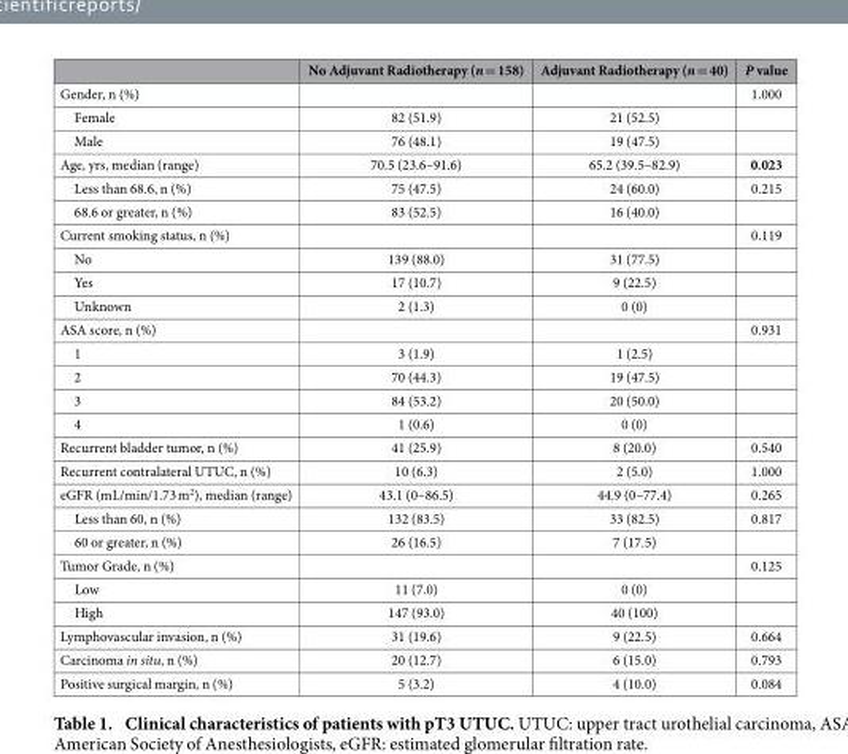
<table><thead><tr><td></td><td>No Adjuvant Radiotherapy (n = 158)</td><td>Adjuvant Radiotherapy (n = 40)</td><td>P value</td></tr></thead><tbody><tr><td>Gender, n (%)</td><td></td><td></td><td>1.000</td></tr><tr><td>Female</td><td>82 (51.9)</td><td>21 (52.5)</td><td></td></tr><tr><td>Male</td><td>76 (48.1)</td><td>19 (47.5)</td><td></td></tr><tr><td>Age, yrs, median (range)</td><td>70.5 (23.6–91.6)</td><td>65.2 (39.5–82.9)</td><td>0.023</td></tr><tr><td>Less than 68.6, n (%)</td><td>75 (47.5)</td><td>24 (60.0)</td><td>0.215</td></tr><tr><td>68.6 or greater, n (%)</td><td>83 (52.5)</td><td>16 (40.0)</td><td></td></tr><tr><td>Current smoking status, n (%)</td><td></td><td></td><td>0.119</td></tr><tr><td>No</td><td>139 (88.0)</td><td>31 (77.5)</td><td></td></tr><tr><td>Yes</td><td>17 (10.7)</td><td>9 (22.5)</td><td></td></tr><tr><td>Unknown</td><td>2 (1.3)</td><td>0 (0)</td><td></td></tr><tr><td>ASA score, n (%)</td><td></td><td></td><td>0.931</td></tr><tr><td>1</td><td>3 (1.9)</td><td>1 (2.5)</td><td></td></tr><tr><td>2</td><td>70 (44.3)</td><td>19 (47.5)</td><td></td></tr><tr><td>3</td><td>84 (53.2)</td><td>20 (50.0)</td><td></td></tr><tr><td>4</td><td>1 (0.6)</td><td>0 (0)</td><td></td></tr><tr><td>Recurrent bladder tumor, n (%)</td><td>41 (25.9)</td><td>8 (20.0)</td><td>0.540</td></tr><tr><td>Recurrent contralateral UTUC, n (%)</td><td>10 (6.3)</td><td>2 (5.0)</td><td>1.000</td></tr><tr><td>eGFR (mL/min/1.73 m<sup>2</sup>), median (range)</td><td>43.1 (0–86.5)</td><td>44.9 (0–77.4)</td><td>0.265</td></tr><tr><td>Less than 60, n (%)</td><td>132 (83.5)</td><td>33 (82.5)</td><td>0.817</td></tr><tr><td>60 or greater, n (%)</td><td>26 (16.5)</td><td>7 (17.5)</td><td></td></tr><tr><td>Tumor Grade, n (%)</td><td></td><td></td><td>0.125</td></tr><tr><td>Low</td><td>11 (7.0)</td><td>0 (0)</td><td></td></tr><tr><td>High</td><td>147 (93.0)</td><td>40 (100)</td><td></td></tr><tr><td>Lymphovascular invasion, n (%)</td><td>31 (19.6)</td><td>9 (22.5)</td><td>0.664</td></tr><tr><td>Carcinoma in situ, n (%)</td><td>20 (12.7)</td><td>6 (15.0)</td><td>0.793</td></tr><tr><td>Positive surgical margin, n (%)</td><td>5 (3.2)</td><td>4 (10.0)</td><td>0.084</td></tr></tbody></table>